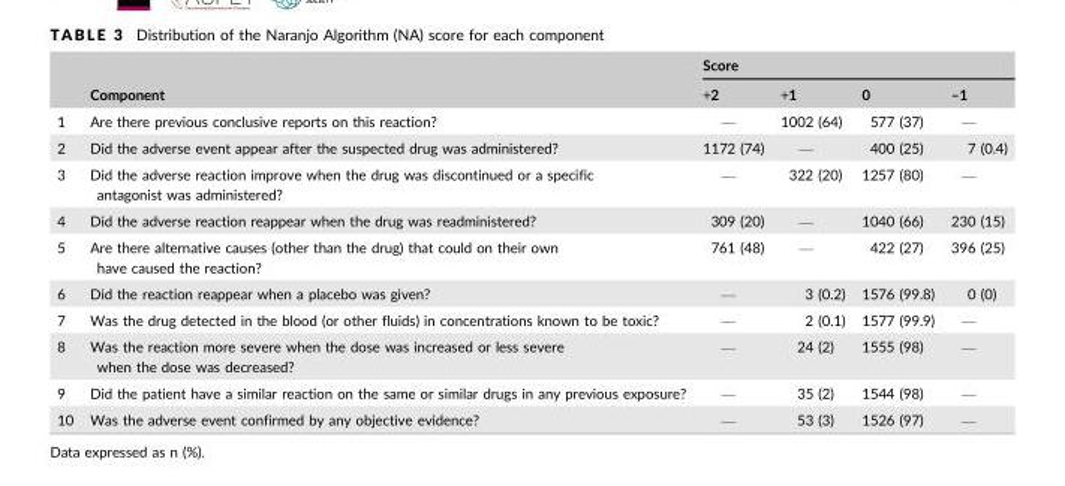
<table><thead><tr><td rowspan="2"></td><td rowspan="2">Component</td><td colspan="4">Score</td></tr><tr><td>+2</td><td>+1</td><td>0</td><td>–1</td></tr></thead><tbody><tr><td>1</td><td>Are there previous conclusive reports on this reaction?</td><td>—</td><td>1002 (64)</td><td>577 (37)</td><td>—</td></tr><tr><td>2</td><td>Did the adverse event appear after the suspected drug was administered?</td><td>1172 (74)</td><td>—</td><td>400 (25)</td><td>7 (0.4)</td></tr><tr><td>3</td><td>Did the adverse reaction improve when the drug was discontinued or a specific antagonist was administered?</td><td>—</td><td>322 (20)</td><td>1257 (80)</td><td>—</td></tr><tr><td>4</td><td>Did the adverse reaction reappear when the drug was readministered?</td><td>309 (20)</td><td>—</td><td>1040 (66)</td><td>230 (15)</td></tr><tr><td>5</td><td>Are there alternative causes (other than the drug) that could on their own have caused the reaction?</td><td>761 (48)</td><td>—</td><td>422 (27)</td><td>396 (25)</td></tr><tr><td>6</td><td>Did the reaction reappear when a placebo was given?</td><td>—</td><td>3 (0.2)</td><td>1576 (99.8)</td><td>0 (0)</td></tr><tr><td>7</td><td>Was the drug detected in the blood (or other fluids) in concentrations known to be toxic?</td><td>—</td><td>2 (0.1)</td><td>1577 (99.9)</td><td>—</td></tr><tr><td>8</td><td>Was the reaction more severe when the dose was increased or less severe when the dose was decreased?</td><td>—</td><td>24 (2)</td><td>1555 (98)</td><td>—</td></tr><tr><td>9</td><td>Did the patient have a similar reaction on the same or similar drugs in any previous exposure?</td><td>—</td><td>35 (2)</td><td>1544 (98)</td><td>—</td></tr><tr><td>10</td><td>Was the adverse event confirmed by any objective evidence?</td><td>—</td><td>53 (3)</td><td>1526 (97)</td><td>—</td></tr></tbody></table>